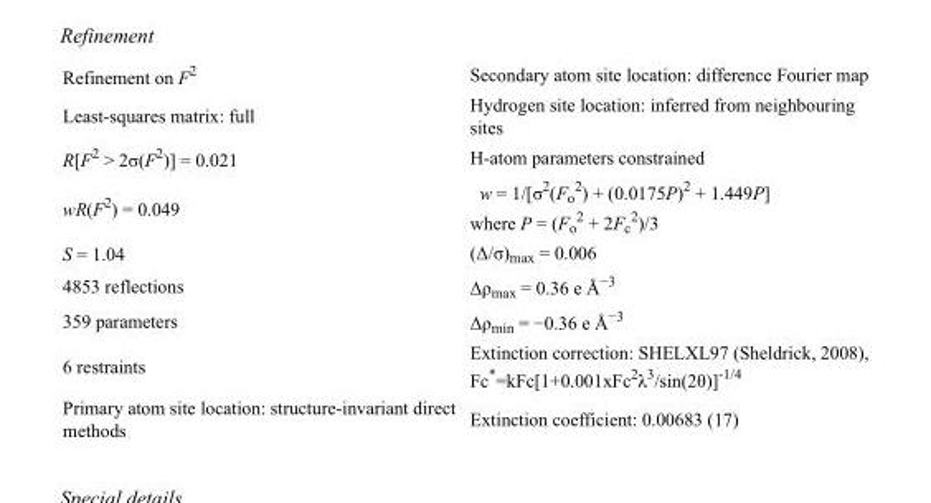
<table><tbody><tr><td>Refinement on F<sup>2</sup></td><td>Secondary atom site location: difference Fourier map</td></tr><tr><td>Least-squares matrix: full</td><td>Hydrogen site location: inferred from neighbouring sites</td></tr><tr><td>R[F<sup>2</sup> &gt; 2σ(F<sup>2</sup>)] = 0.021</td><td>H-atom parameters constrained</td></tr><tr><td>wR(F<sup>2</sup>) = 0.049</td><td>w = 1/[σ<sup>2</sup>(F<sub>o</sub> <sup>2</sup>) + (0.0175P)<sup>2</sup> + 1.449P] where P = (F<sub>o</sub> <sup>2</sup> + 2F<sub>c</sub> <sup>2</sup>)/3</td></tr><tr><td>S = 1.04</td><td>(Δ/σ)<sub>max</sub> = 0.006</td></tr><tr><td>4853 reflections</td><td>Δρ<sub>max</sub> = 0.36 e Å<sup>−3</sup></td></tr><tr><td>359 parameters</td><td>Δρ<sub>min</sub> = −0.36 e Å<sup>−3</sup></td></tr><tr><td>6 restraints</td><td>Extinction correction: SHELXL97 (Sheldrick, 2008), Fc*=kFc[1+0.001xFc<sup>2</sup>λ<sup>3</sup>/sin(2θ)]<sup>-1/4</sup></td></tr><tr><td>Primary atom site location: structure-invariant direct methods</td><td>Extinction coefficient: 0.00683 (17)</td></tr></tbody></table>